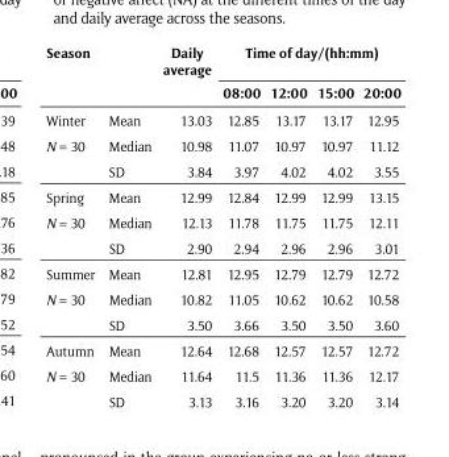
<table><thead><tr><td rowspan="2">Season</td><td rowspan="2"></td><td rowspan="2">Daily average</td><td colspan="4">Time of day/(hh:mm)</td></tr><tr><td>08:00</td><td>12:00</td><td>15:00</td><td>20:00</td></tr></thead><tbody><tr><td>Winter</td><td>Mean</td><td>13.03</td><td>12.85</td><td>13.17</td><td>13.17</td><td>12.95</td></tr><tr><td rowspan="2">N = 30</td><td>Median</td><td>10.98</td><td>11.07</td><td>10.97</td><td>10.97</td><td>11.12</td></tr><tr><td>SD</td><td>3.84</td><td>3.97</td><td>4.02</td><td>4.02</td><td>3.55</td></tr><tr><td>Spring</td><td>Mean</td><td>12.99</td><td>12.84</td><td>12.99</td><td>12.99</td><td>13.15</td></tr><tr><td rowspan="2">N = 30</td><td>Median</td><td>12.13</td><td>11.78</td><td>11.75</td><td>11.75</td><td>12.11</td></tr><tr><td>SD</td><td>2.90</td><td>2.94</td><td>2.96</td><td>2.96</td><td>3.01</td></tr><tr><td>Summer</td><td>Mean</td><td>12.81</td><td>12.95</td><td>12.79</td><td>12.79</td><td>12.72</td></tr><tr><td rowspan="2">N = 30</td><td>Median</td><td>10.82</td><td>11.05</td><td>10.62</td><td>10.62</td><td>10.58</td></tr><tr><td>SD</td><td>3.50</td><td>3.66</td><td>3.50</td><td>3.50</td><td>3.60</td></tr><tr><td>Autumn</td><td>Mean</td><td>12.64</td><td>12.68</td><td>12.57</td><td>12.57</td><td>12.72</td></tr><tr><td rowspan="2">N = 30</td><td>Median</td><td>11.64</td><td>11.5</td><td>11.36</td><td>11.36</td><td>12.17</td></tr><tr><td>SD</td><td>3.13</td><td>3.16</td><td>3.20</td><td>3.20</td><td>3.14</td></tr></tbody></table>